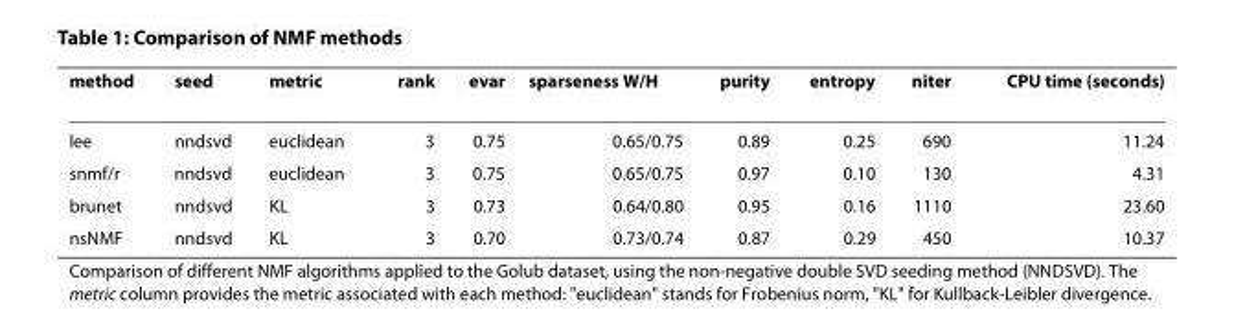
<table><thead><tr><td>method</td><td>seed</td><td>metric</td><td>rank</td><td>evar</td><td>sparseness W/H</td><td>purity</td><td>entropy</td><td>niter</td><td>CPU time (seconds)</td></tr></thead><tbody><tr><td>lee</td><td>nndsvd</td><td>euclidean</td><td>3</td><td>0.75</td><td>0.65/0.75</td><td>0.89</td><td>0.25</td><td>690</td><td>11.24</td></tr><tr><td>snmf/r</td><td>nndsvd</td><td>euclidean</td><td>3</td><td>0.75</td><td>0.65/0.75</td><td>0.97</td><td>0.10</td><td>130</td><td>4.31</td></tr><tr><td>brunet</td><td>nndsvd</td><td>KL</td><td>3</td><td>0.73</td><td>0.64/0.80</td><td>0.95</td><td>0.16</td><td>1110</td><td>23.60</td></tr><tr><td>nsNMF</td><td>nndsvd</td><td>KL</td><td>3</td><td>0.70</td><td>0.73/0.74</td><td>0.87</td><td>0.29</td><td>450</td><td>10.37</td></tr></tbody></table>